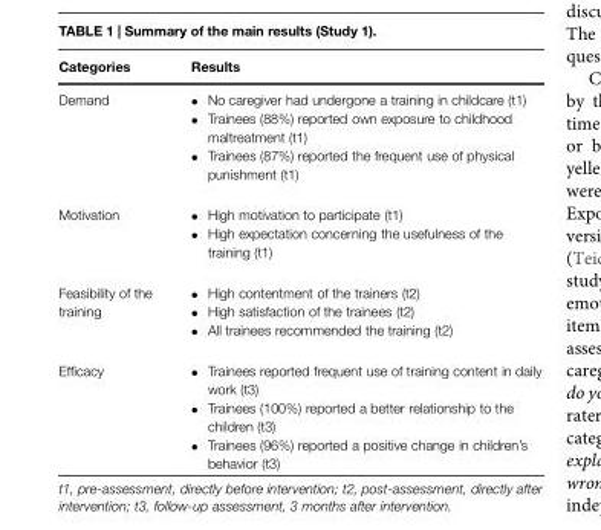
<table><thead><tr><td>Categories</td><td>Results</td></tr></thead><tbody><tr><td>Demand</td><td>• No caregiver had undergone a training in childcare (t1) • Trainees (88%) reported own exposure to childhood maltreatment (t1) • Trainees (87%) reported the frequent use of physical punishment (t1)</td></tr><tr><td>Motivation</td><td>• High motivation to participate (t1) • High expectation concerning the usefulness of the training (t1)</td></tr><tr><td>Feasibility of the training</td><td>• High contentment of the trainers (t2) • High satisfaction of the trainees (t2) • All trainees recommended the training (t2)</td></tr><tr><td>Efficacy</td><td>• Trainees reported frequent use of training content in daily work (t3) • Trainees (100%) reported a better relationship to the children (t3) • Trainees (96%) reported a positive change in children’s behavior (t3)</td></tr></tbody></table>